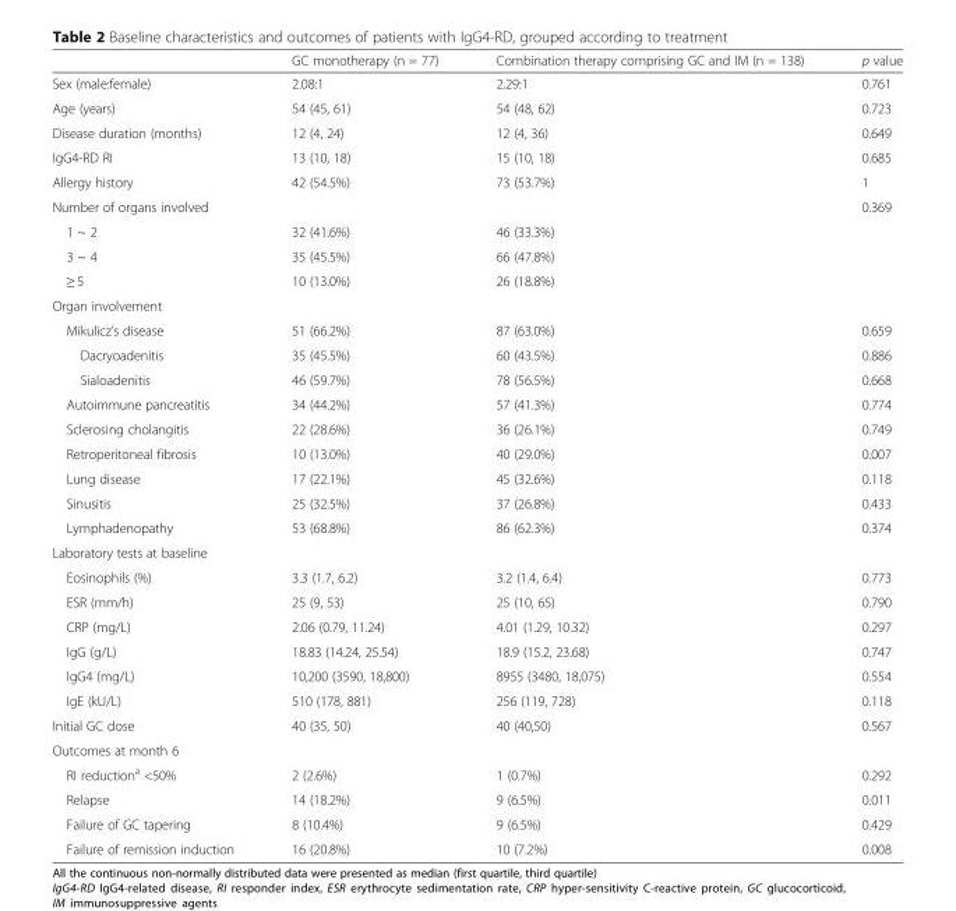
<table><thead><tr><td></td><td>GC monotherapy (n = 77)</td><td>Combination therapy comprising GC and IM (n = 138)</td><td>p value</td></tr></thead><tbody><tr><td>Sex (male:female)</td><td>2.08:1</td><td>2.29:1</td><td>0.761</td></tr><tr><td>Age (years)</td><td>54 (45, 61)</td><td>54 (48, 62)</td><td>0.723</td></tr><tr><td>Disease duration (months)</td><td>12 (4, 24)</td><td>12 (4, 36)</td><td>0.649</td></tr><tr><td>IgG4-RD RI</td><td>13 (10, 18)</td><td>15 (10, 18)</td><td>0.685</td></tr><tr><td>Allergy history</td><td>42 (54.5%)</td><td>73 (53.7%)</td><td>1</td></tr><tr><td colspan="2">Number of organs involved</td><td></td><td>0.369</td></tr><tr><td>1 ~ 2</td><td>32 (41.6%)</td><td>46 (33.3%)</td><td></td></tr><tr><td>3 ~ 4</td><td>35 (45.5%)</td><td>66 (47.8%)</td><td></td></tr><tr><td>≥ 5</td><td>10 (13.0%)</td><td>26 (18.8%)</td><td></td></tr><tr><td colspan="4">Organ involvement</td></tr><tr><td>Mikulicz’s disease</td><td>51 (66.2%)</td><td>87 (63.0%)</td><td>0.659</td></tr><tr><td>Dacryoadenitis</td><td>35 (45.5%)</td><td>60 (43.5%)</td><td>0.886</td></tr><tr><td>Sialoadenitis</td><td>46 (59.7%)</td><td>78 (56.5%)</td><td>0.668</td></tr><tr><td>Autoimmune pancreatitis</td><td>34 (44.2%)</td><td>57 (41.3%)</td><td>0.774</td></tr><tr><td>Sclerosing cholangitis</td><td>22 (28.6%)</td><td>36 (26.1%)</td><td>0.749</td></tr><tr><td>Retroperitoneal fibrosis</td><td>10 (13.0%)</td><td>40 (29.0%)</td><td>0.007</td></tr><tr><td>Lung disease</td><td>17 (22.1%)</td><td>45 (32.6%)</td><td>0.118</td></tr><tr><td>Sinusitis</td><td>25 (32.5%)</td><td>37 (26.8%)</td><td>0.433</td></tr><tr><td>Lymphadenopathy</td><td>53 (68.8%)</td><td>86 (62.3%)</td><td>0.374</td></tr><tr><td colspan="4">Laboratory tests at baseline</td></tr><tr><td>Eosinophils (%)</td><td>3.3 (1.7, 6.2)</td><td>3.2 (1.4, 6.4)</td><td>0.773</td></tr><tr><td>ESR (mm/h)</td><td>25 (9, 53)</td><td>25 (10, 65)</td><td>0.790</td></tr><tr><td>CRP (mg/L)</td><td>2.06 (0.79, 11.24)</td><td>4.01 (1.29, 10.32)</td><td>0.297</td></tr><tr><td>IgG (g/L)</td><td>18.83 (14.24, 25.54)</td><td>18.9 (15.2, 23.68)</td><td>0.747</td></tr><tr><td>IgG4 (mg/L)</td><td>10,200 (3590, 18,800)</td><td>8955 (3480, 18,075)</td><td>0.554</td></tr><tr><td>IgE (kU/L)</td><td>510 (178, 881)</td><td>256 (119, 728)</td><td>0.118</td></tr><tr><td>Initial GC dose</td><td>40 (35, 50)</td><td>40 (40,50)</td><td>0.567</td></tr><tr><td colspan="4">Outcomes at month 6</td></tr><tr><td>RI reduction<sup>a</sup> &lt;50%</td><td>2 (2.6%)</td><td>1 (0.7%)</td><td>0.292</td></tr><tr><td>Relapse</td><td>14 (18.2%)</td><td>9 (6.5%)</td><td>0.011</td></tr><tr><td>Failure of GC tapering</td><td>8 (10.4%)</td><td>9 (6.5%)</td><td>0.429</td></tr><tr><td>Failure of remission induction</td><td>16 (20.8%)</td><td>10 (7.2%)</td><td>0.008</td></tr></tbody></table>